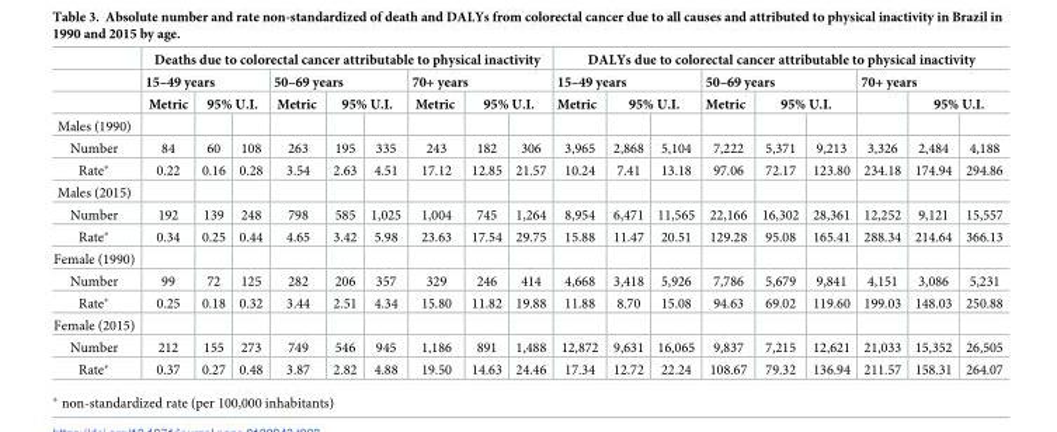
<table><thead><tr><td rowspan="4">Males (1990)</td><td colspan="9">Deaths due to colorectal cancer attributable to physical inactivity</td><td colspan="9">DALYs due to colorectal cancer attributable to physical inactivity</td></tr><tr><td colspan="3">15–49 years</td><td colspan="3">50–69 years</td><td colspan="3">70+ years</td><td colspan="3">15–49 years</td><td colspan="3">50–69 years</td><td colspan="3">70+ years</td></tr><tr><td rowspan="2">Metric</td><td colspan="2">95% U.I.</td><td rowspan="2">Metric</td><td colspan="2">95% U.I.</td><td rowspan="2">Metric</td><td colspan="2">95% U.I.</td><td rowspan="2">Metric</td><td colspan="2">95% U.I.</td><td rowspan="2">Metric</td><td colspan="2">95% U.I.</td><td rowspan="2"></td><td colspan="2">95% U.I.</td></tr><tr><td></td><td></td><td></td><td></td><td></td><td></td><td></td><td></td><td></td><td></td><td></td><td></td></tr></thead><tbody><tr><td>Number</td><td>84</td><td>60</td><td>108</td><td>263</td><td>195</td><td>335</td><td>243</td><td>182</td><td>306</td><td>3,965</td><td>2,868</td><td>5,104</td><td>7,222</td><td>5,371</td><td>9,213</td><td>3,326</td><td>2,484</td><td>4,188</td></tr><tr><td>Rate*</td><td>0.22</td><td>0.16</td><td>0.28</td><td>3.54</td><td>2.63</td><td>4.51</td><td>17.12</td><td>12.85</td><td>21.57</td><td>10.24</td><td>7.41</td><td>13.18</td><td>97.06</td><td>72.17</td><td>123.80</td><td>234.18</td><td>174.94</td><td>294.86</td></tr><tr><td colspan="19">Males (2015)</td></tr><tr><td>Number</td><td>192</td><td>139</td><td>248</td><td>798</td><td>585</td><td>1,025</td><td>1,004</td><td>745</td><td>1,264</td><td>8,954</td><td>6,471</td><td>11,565</td><td>22,166</td><td>16,302</td><td>28,361</td><td>12,252</td><td>9,121</td><td>15,557</td></tr><tr><td>Rate*</td><td>0.34</td><td>0.25</td><td>0.44</td><td>4.65</td><td>3.42</td><td>5.98</td><td>23.63</td><td>17.54</td><td>29.75</td><td>15.88</td><td>11.47</td><td>20.51</td><td>129.28</td><td>95.08</td><td>165.41</td><td>288.34</td><td>214.64</td><td>366.13</td></tr><tr><td colspan="19">Female (1990)</td></tr><tr><td>Number</td><td>99</td><td>72</td><td>125</td><td>282</td><td>206</td><td>357</td><td>329</td><td>246</td><td>414</td><td>4,668</td><td>3,418</td><td>5,926</td><td>7,786</td><td>5,679</td><td>9,841</td><td>4,151</td><td>3,086</td><td>5,231</td></tr><tr><td>Rate*</td><td>0.25</td><td>0.18</td><td>0.32</td><td>3.44</td><td>2.51</td><td>4.34</td><td>15.80</td><td>11.82</td><td>19.88</td><td>11.88</td><td>8.70</td><td>15.08</td><td>94.63</td><td>69.02</td><td>119.60</td><td>199.03</td><td>148.03</td><td>250.88</td></tr><tr><td colspan="19">Female (2015)</td></tr><tr><td>Number</td><td>212</td><td>155</td><td>273</td><td>749</td><td>546</td><td>945</td><td>1,186</td><td>891</td><td>1,488</td><td>12,872</td><td>9,631</td><td>16,065</td><td>9,837</td><td>7,215</td><td>12,621</td><td>21,033</td><td>15,352</td><td>26,505</td></tr><tr><td>Rate*</td><td>0.37</td><td>0.27</td><td>0.48</td><td>3.87</td><td>2.82</td><td>4.88</td><td>19.50</td><td>14.63</td><td>24.46</td><td>17.34</td><td>12.72</td><td>22.24</td><td>108.67</td><td>79.32</td><td>136.94</td><td>211.57</td><td>158.31</td><td>264.07</td></tr></tbody></table>